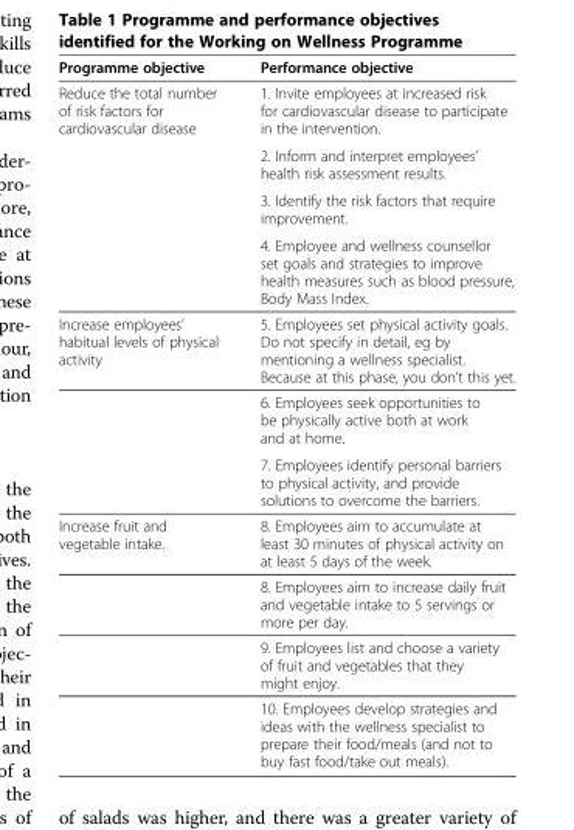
<table><thead><tr><td>Programme objective</td><td>Performance objective</td></tr></thead><tbody><tr><td rowspan="4">Reduce the total number of risk factors for cardiovascular disease</td><td>1. Invite employees at increased risk for cardiovascular disease to participate in the intervention.</td></tr><tr><td>2. Inform and interpret employees’ health risk assessment results.</td></tr><tr><td>3. Identify the risk factors that require improvement.</td></tr><tr><td>4. Employee and wellness counsellor set goals and strategies to improve health measures such as blood pressure, Body Mass Index.</td></tr><tr><td rowspan="3">Increase employees’ habitual levels of physical activity</td><td>5. Employees set physical activity goals. Do not specify in detail, eg by mentioning a wellness specialist. Because at this phase, you don’t this yet.</td></tr><tr><td>6. Employees seek opportunities to be physically active both at work and at home.</td></tr><tr><td>7. Employees identify personal barriers to physical activity, and provide solutions to overcome the barriers.</td></tr><tr><td rowspan="4">Increase fruit and vegetable intake.</td><td>8. Employees aim to accumulate at least 30 minutes of physical activity on at least 5 days of the week.</td></tr><tr><td>8. Employees aim to increase daily fruit and vegetable intake to 5 servings or more per day.</td></tr><tr><td>9. Employees list and choose a variety of fruit and vegetables that they might enjoy.</td></tr><tr><td>10. Employees develop strategies and ideas with the wellness specialist to prepare their food/meals (and not to buy fast food/take out meals).</td></tr></tbody></table>